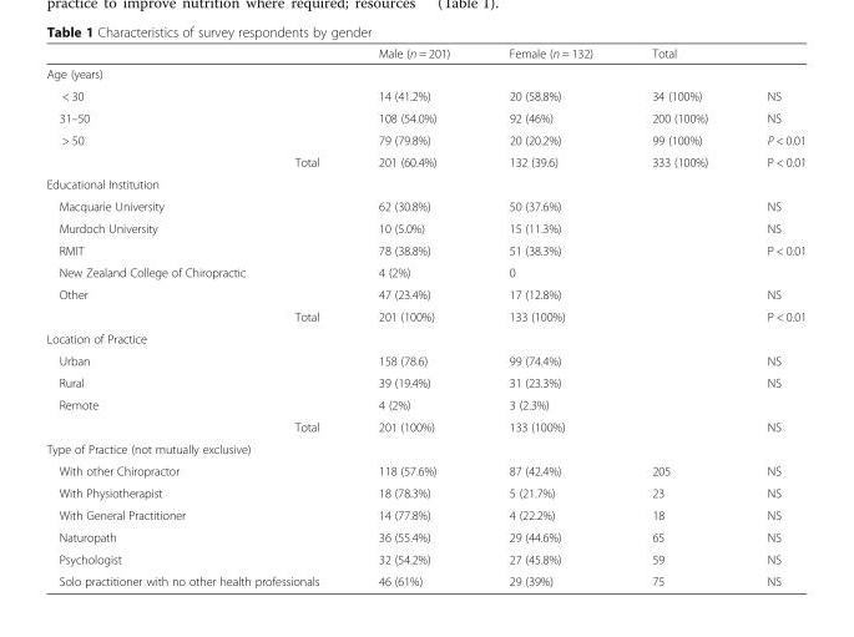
<table><thead><tr><td></td><td>Male (n = 201)</td><td>Female (n = 132)</td><td>Total</td><td></td></tr></thead><tbody><tr><td colspan="5">Age (years)</td></tr><tr><td>&lt; 30</td><td>14 (41.2%)</td><td>20 (58.8%)</td><td>34 (100%)</td><td>NS</td></tr><tr><td>31–50</td><td>108 (54.0%)</td><td>92 (46%)</td><td>200 (100%)</td><td>NS</td></tr><tr><td>&gt; 50</td><td>79 (79.8%)</td><td>20 (20.2%)</td><td>99 (100%)</td><td>P &lt; 0.01</td></tr><tr><td>Total</td><td>201 (60.4%)</td><td>132 (39.6)</td><td>333 (100%)</td><td>P &lt; 0.01</td></tr><tr><td colspan="5">Educational Institution</td></tr><tr><td>Macquarie University</td><td>62 (30.8%)</td><td>50 (37.6%)</td><td></td><td>NS</td></tr><tr><td>Murdoch University</td><td>10 (5.0%)</td><td>15 (11.3%)</td><td></td><td>NS</td></tr><tr><td>RMIT</td><td>78 (38.8%)</td><td>51 (38.3%)</td><td></td><td>P &lt; 0.01</td></tr><tr><td>New Zealand College of Chiropractic</td><td>4 (2%)</td><td>0</td><td></td><td></td></tr><tr><td>Other</td><td>47 (23.4%)</td><td>17 (12.8%)</td><td></td><td>NS</td></tr><tr><td>Total</td><td>201 (100%)</td><td>133 (100%)</td><td></td><td>P &lt; 0.01</td></tr><tr><td colspan="5">Location of Practice</td></tr><tr><td>Urban</td><td>158 (78.6)</td><td>99 (74.4%)</td><td></td><td>NS</td></tr><tr><td>Rural</td><td>39 (19.4%)</td><td>31 (23.3%)</td><td></td><td>NS</td></tr><tr><td>Remote</td><td>4 (2%)</td><td>3 (2.3%)</td><td></td><td></td></tr><tr><td>Total</td><td>201 (100%)</td><td>133 (100%)</td><td></td><td>NS</td></tr><tr><td colspan="5">Type of Practice (not mutually exclusive)</td></tr><tr><td>With other Chiropractor</td><td>118 (57.6%)</td><td>87 (42.4%)</td><td>205</td><td>NS</td></tr><tr><td>With Physiotherapist</td><td>18 (78.3%)</td><td>5 (21.7%)</td><td>23</td><td>NS</td></tr><tr><td>With General Practitioner</td><td>14 (77.8%)</td><td>4 (22.2%)</td><td>18</td><td>NS</td></tr><tr><td>Naturopath</td><td>36 (55.4%)</td><td>29 (44.6%)</td><td>65</td><td>NS</td></tr><tr><td>Psychologist</td><td>32 (54.2%)</td><td>27 (45.8%)</td><td>59</td><td>NS</td></tr><tr><td>Solo practitioner with no other health professionals</td><td>46 (61%)</td><td>29 (39%)</td><td>75</td><td>NS</td></tr></tbody></table>